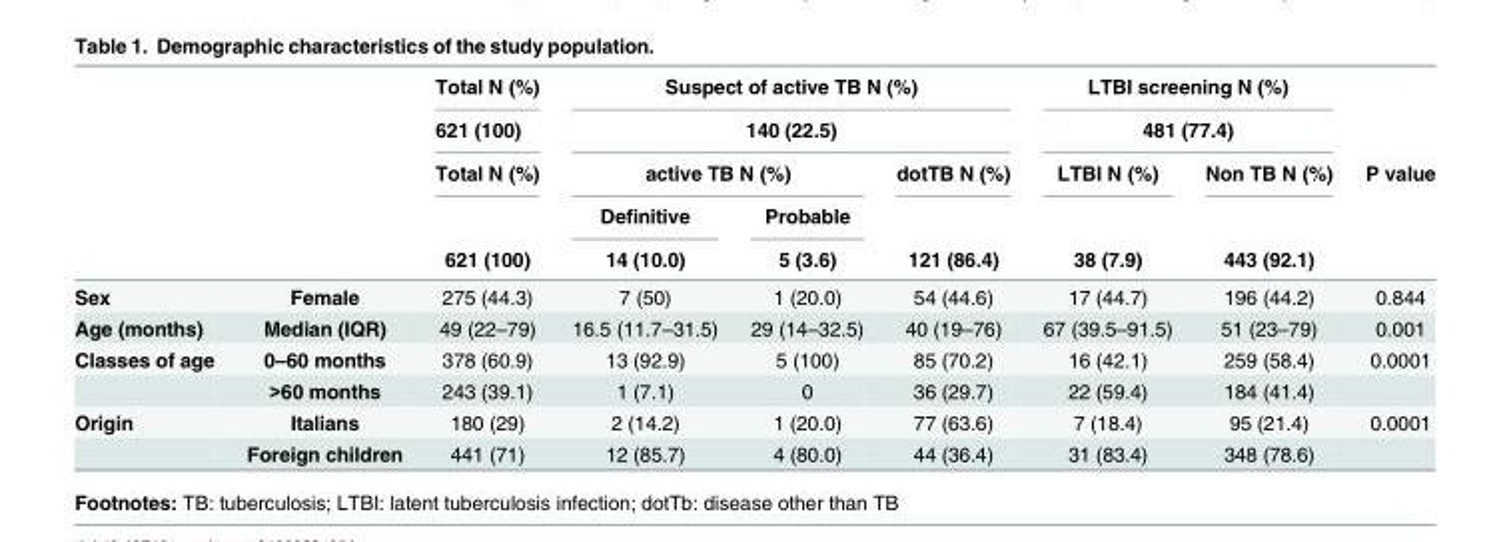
<table><thead><tr><td rowspan="5"></td><td rowspan="5"></td><td rowspan="5">Total N (%) 621 (100) Total N (%) 621 (100)</td><td rowspan="2" colspan="3">Suspect of active TB N (%) 140 (22.5)</td><td rowspan="2" colspan="2">LTBI screening N (%) 481 (77.4)</td><td rowspan="5">P value</td></tr><tr></tr><tr><td colspan="2">active TB N (%)</td><td rowspan="3">dotTB N (%) 121 (86.4)</td><td rowspan="3">LTBI N (%) 38 (7.9)</td><td rowspan="3">Non TB N (%) 443 (92.1)</td></tr><tr><td rowspan="2">Definitive 14 (10.0)</td><td rowspan="2">Probable 5 (3.6)</td></tr><tr></tr></thead><tbody><tr><td>Sex</td><td>Female</td><td>275 (44.3)</td><td>7 (50)</td><td>1 (20.0)</td><td>54 (44.6)</td><td>17 (44.7)</td><td>196 (44.2)</td><td>0.844</td></tr><tr><td>Age (months)</td><td>Median (IQR)</td><td>49 (22–79)</td><td>16.5 (11.7–31.5)</td><td>29 (14–32.5)</td><td>40 (19–76)</td><td>67 (39.5–91.5)</td><td>51 (23–79)</td><td>0.001</td></tr><tr><td rowspan="2">Classes of age</td><td>0–60 months</td><td>378 (60.9)</td><td>13 (92.9)</td><td>5 (100)</td><td>85 (70.2)</td><td>16 (42.1)</td><td>259 (58.4)</td><td>0.0001</td></tr><tr><td>&gt;60 months</td><td>243 (39.1)</td><td>1 (7.1)</td><td>0</td><td>36 (29.7)</td><td>22 (59.4)</td><td>184 (41.4)</td><td></td></tr><tr><td rowspan="2">Origin</td><td>Italians</td><td>180 (29)</td><td>2 (14.2)</td><td>1 (20.0)</td><td>77 (63.6)</td><td>7 (18.4)</td><td>95 (21.4)</td><td>0.0001</td></tr><tr><td>Foreign children</td><td>441 (71)</td><td>12 (85.7)</td><td>4 (80.0)</td><td>44 (36.4)</td><td>31 (83.4)</td><td>348 (78.6)</td><td></td></tr></tbody></table>